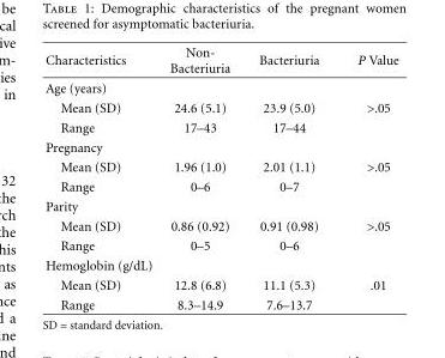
<table><thead><tr><td>Characteristics</td><td>Non- Bacteriuria</td><td>Bacteriuria</td><td>P Value</td></tr></thead><tbody><tr><td colspan="4">Age (years)</td></tr><tr><td>Mean (SD)</td><td>24.6 (5.1)</td><td>23.9 (5.0)</td><td>&gt;.05</td></tr><tr><td>Range</td><td>17–43</td><td>17–44</td><td></td></tr><tr><td colspan="4">Pregnancy</td></tr><tr><td>Mean (SD)</td><td>1.96 (1.0)</td><td>2.01 (1.1)</td><td>&gt;.05</td></tr><tr><td>Range</td><td>0–6</td><td>0–7</td><td></td></tr><tr><td colspan="4">Parity</td></tr><tr><td>Mean (SD)</td><td>0.86 (0.92)</td><td>0.91 (0.98)</td><td>&gt;.05</td></tr><tr><td>Range</td><td>0–5</td><td>0–6</td><td></td></tr><tr><td colspan="4">Hemoglobin (g/dL)</td></tr><tr><td>Mean (SD)</td><td>12.8 (6.8)</td><td>11.1 (5.3)</td><td>.01</td></tr><tr><td>Range</td><td>8.3–14.9</td><td>7.6–13.7</td><td></td></tr></tbody></table>